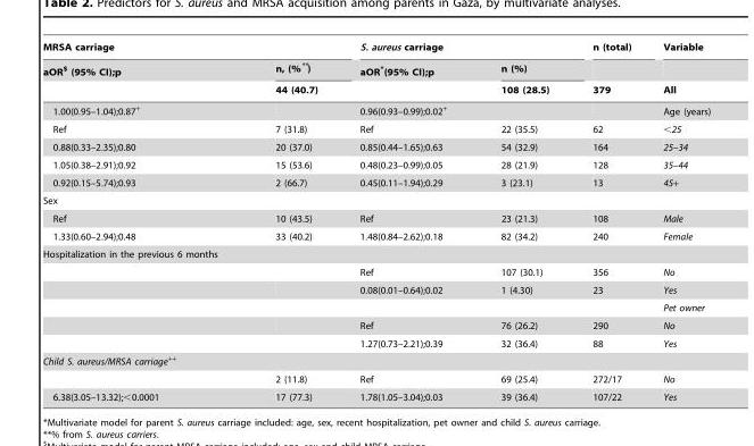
<table><thead><tr><td colspan="2">MRSA carriage</td><td colspan="2">S. aureus carriage</td><td rowspan="3">n (total) 379</td><td rowspan="3">Variable All</td></tr><tr><td rowspan="2">aOR$ (95% CI);p</td><td rowspan="2">n, (%**) 44 (40.7)</td><td rowspan="2">aOR*(95% CI);p</td><td rowspan="2">n (%) 108 (28.5)</td></tr><tr></tr></thead><tbody><tr><td>1.00(0.95–1.04);0.87+</td><td></td><td>0.96(0.93–0.99);0.02+</td><td></td><td></td><td>Age (years)</td></tr><tr><td>Ref</td><td>7 (31.8)</td><td>Ref</td><td>22 (35.5)</td><td>62</td><td>&lt;25</td></tr><tr><td>0.88(0.33–2.35);0.80</td><td>20 (37.0)</td><td>0.85(0.44–1.65);0.63</td><td>54 (32.9)</td><td>164</td><td>25–34</td></tr><tr><td>1.05(0.38–2.91);0.92</td><td>15 (53.6)</td><td>0.48(0.23–0.99);0.05</td><td>28 (21.9)</td><td>128</td><td>35–44</td></tr><tr><td>0.92(0.15–5.74);0.93</td><td>2 (66.7)</td><td>0.45(0.11–1.94);0.29</td><td>3 (23.1)</td><td>13</td><td>45+</td></tr><tr><td colspan="6">Sex</td></tr><tr><td>Ref</td><td>10 (43.5)</td><td>Ref</td><td>23 (21.3)</td><td>108</td><td>Male</td></tr><tr><td>1.33(0.60–2.94);0.48</td><td>33 (40.2)</td><td>1.48(0.84–2.62);0.18</td><td>82 (34.2)</td><td>240</td><td>Female</td></tr><tr><td colspan="6">Hospitalization in the previous 6 months</td></tr><tr><td></td><td></td><td>Ref</td><td>107 (30.1)</td><td>356</td><td>No</td></tr><tr><td></td><td></td><td>0.08(0.01–0.64);0.02</td><td>1 (4.30)</td><td>23</td><td>Yes</td></tr><tr><td></td><td></td><td></td><td></td><td></td><td>Pet owner</td></tr><tr><td></td><td></td><td>Ref</td><td>76 (26.2)</td><td>290</td><td>No</td></tr><tr><td></td><td></td><td>1.27(0.73–2.21);0.39</td><td>32 (36.4)</td><td>88</td><td>Yes</td></tr><tr><td colspan="6">Child S. aureus/MRSA carriage++</td></tr><tr><td></td><td>2 (11.8)</td><td>Ref</td><td>69 (25.4)</td><td>272/17</td><td>No</td></tr><tr><td>6.38(3.05–13.32);&lt;0.0001</td><td>17 (77.3)</td><td>1.78(1.05–3.04);0.03</td><td>39 (36.4)</td><td>107/22</td><td>Yes</td></tr></tbody></table>